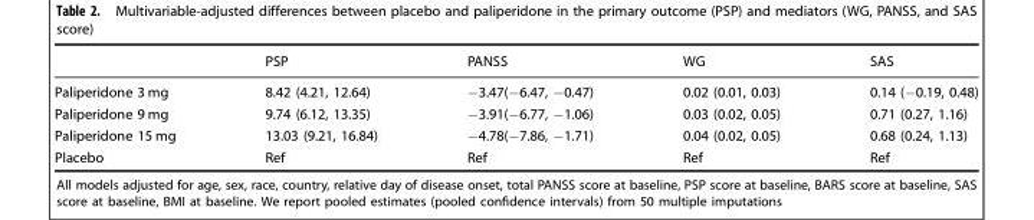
<table><thead><tr><td></td><td>PSP</td><td>PANSS</td><td>WG</td><td>SAS</td></tr></thead><tbody><tr><td>Paliperidone 3 mg</td><td>8.42 (4.21, 12.64)</td><td>−3.47(−6.47, −0.47)</td><td>0.02 (0.01, 0.03)</td><td>0.14 (−0.19, 0.48)</td></tr><tr><td>Paliperidone 9 mg</td><td>9.74 (6.12, 13.35)</td><td>−3.91(−6.77, −1.06)</td><td>0.03 (0.02, 0.05)</td><td>0.71 (0.27, 1.16)</td></tr><tr><td>Paliperidone 15 mg</td><td>13.03 (9.21, 16.84)</td><td>−4.78(−7.86, −1.71)</td><td>0.04 (0.02, 0.05)</td><td>0.68 (0.24, 1.13)</td></tr><tr><td>Placebo</td><td>Ref</td><td>Ref</td><td>Ref</td><td>Ref</td></tr></tbody></table>